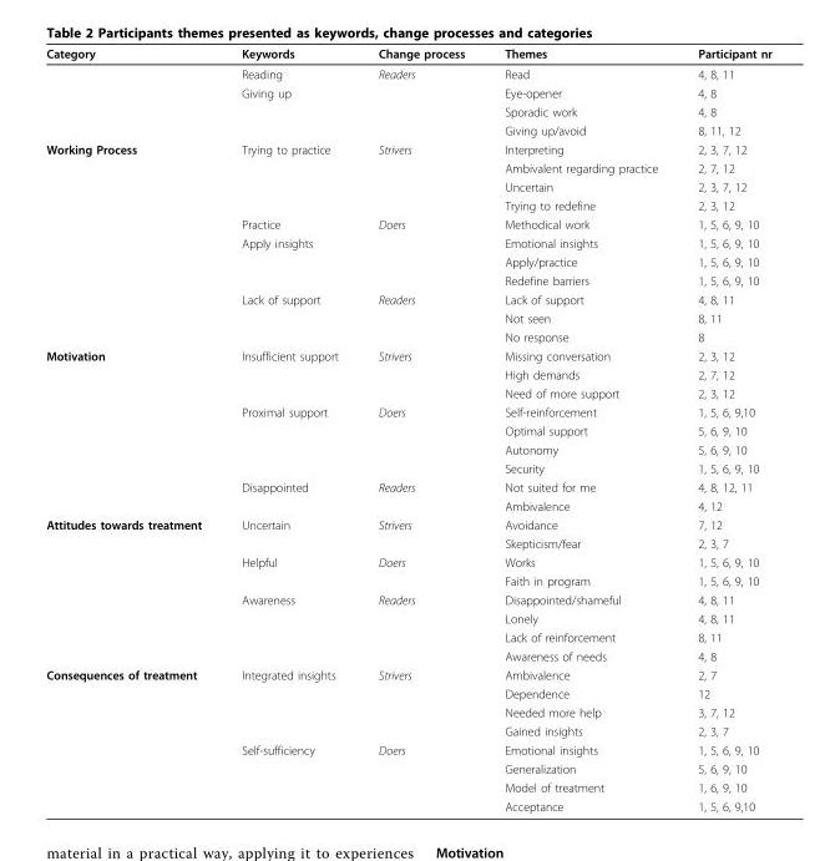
<table><thead><tr><td>Category</td><td>Keywords</td><td>Change process</td><td>Themes</td><td>Participant nr</td></tr></thead><tbody><tr><td></td><td>Reading</td><td>Readers</td><td>Read</td><td>4, 8, 11</td></tr><tr><td></td><td>Giving up</td><td></td><td>Eye-opener</td><td>4, 8</td></tr><tr><td></td><td></td><td></td><td>Sporadic work</td><td>4, 8</td></tr><tr><td></td><td></td><td></td><td>Giving up/avoid</td><td>8, 11, 12</td></tr><tr><td rowspan="11">Working Process</td><td>Trying to practice</td><td>Strivers</td><td>Interpreting</td><td>2, 3, 7, 12</td></tr><tr><td></td><td></td><td>Ambivalent regarding practice</td><td>2, 7, 12</td></tr><tr><td></td><td></td><td>Uncertain</td><td>2, 3, 7, 12</td></tr><tr><td></td><td></td><td>Trying to redefine</td><td>2, 3, 12</td></tr><tr><td>Practice</td><td>Doers</td><td>Methodical work</td><td>1, 5, 6, 9, 10</td></tr><tr><td>Apply insights</td><td></td><td>Emotional insights</td><td>1, 5, 6, 9, 10</td></tr><tr><td></td><td></td><td>Apply/practice</td><td>1, 5, 6, 9, 10</td></tr><tr><td></td><td></td><td>Redefine barriers</td><td>1, 5, 6, 9, 10</td></tr><tr><td>Lack of support</td><td>Readers</td><td>Lack of support</td><td>4, 8, 11</td></tr><tr><td></td><td></td><td>Not seen</td><td>8, 11</td></tr><tr><td></td><td></td><td>No response</td><td>8</td></tr><tr><td rowspan="9">Motivation</td><td>Insufficient support</td><td>Strivers</td><td>Missing conversation</td><td>2, 3, 12</td></tr><tr><td></td><td></td><td>High demands</td><td>2, 7, 12</td></tr><tr><td></td><td></td><td>Need of more support</td><td>2, 3, 12</td></tr><tr><td>Proximal support</td><td>Doers</td><td>Self-reinforcement</td><td>1, 5, 6, 9,10</td></tr><tr><td></td><td></td><td>Optimal support</td><td>5, 6, 9, 10</td></tr><tr><td></td><td></td><td>Autonomy</td><td>5, 6, 9, 10</td></tr><tr><td></td><td></td><td>Security</td><td>1, 5, 6, 9, 10</td></tr><tr><td>Disappointed</td><td>Readers</td><td>Not suited for me</td><td>4, 8, 12, 11</td></tr><tr><td></td><td></td><td>Ambivalence</td><td>4, 12</td></tr><tr><td rowspan="8">Attitudes towards treatment</td><td>Uncertain</td><td>Strivers</td><td>Avoidance</td><td>7, 12</td></tr><tr><td></td><td></td><td>Skepticism/fear</td><td>2, 3, 7</td></tr><tr><td>Helpful</td><td>Doers</td><td>Works</td><td>1, 5, 6, 9, 10</td></tr><tr><td></td><td></td><td>Faith in program</td><td>1, 5, 6, 9, 10</td></tr><tr><td>Awareness</td><td>Readers</td><td>Disappointed/shameful</td><td>4, 8, 11</td></tr><tr><td></td><td></td><td>Lonely</td><td>4, 8, 11</td></tr><tr><td></td><td></td><td>Lack of reinforcement</td><td>8, 11</td></tr><tr><td></td><td></td><td>Awareness of needs</td><td>4, 8</td></tr><tr><td rowspan="8">Consequences of treatment</td><td>Integrated insights</td><td>Strivers</td><td>Ambivalence</td><td>2, 7</td></tr><tr><td></td><td></td><td>Dependence</td><td>12</td></tr><tr><td></td><td></td><td>Needed more help</td><td>3, 7, 12</td></tr><tr><td></td><td></td><td>Gained insights</td><td>2, 3, 7</td></tr><tr><td>Self-sufficiency</td><td>Doers</td><td>Emotional insights</td><td>1, 5, 6, 9, 10</td></tr><tr><td></td><td></td><td>Generalization</td><td>5, 6, 9, 10</td></tr><tr><td></td><td></td><td>Model of treatment</td><td>1, 6, 9, 10</td></tr><tr><td></td><td></td><td>Acceptance</td><td>1, 5, 6, 9,10</td></tr></tbody></table>